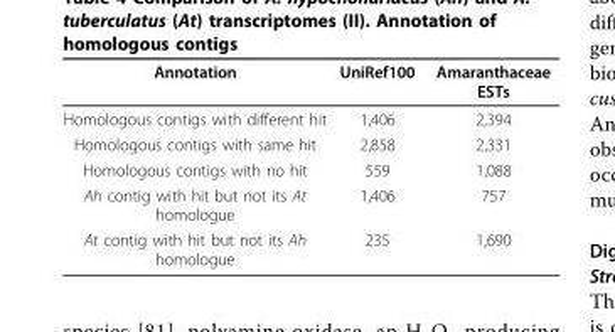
<table><thead><tr><td>Annotation</td><td>UniRef100</td><td>Amaranthaceae ESTs</td></tr></thead><tbody><tr><td>Homologous contigs with different hit</td><td>1,406</td><td>2,394</td></tr><tr><td>Homologous contigs with same hit</td><td>2,858</td><td>2,331</td></tr><tr><td>Homologous contigs with no hit</td><td>559</td><td>1,088</td></tr><tr><td>Ah contig with hit but not its At homologue</td><td>1,406</td><td>757</td></tr><tr><td>At contig with hit but not its Ah homologue</td><td>235</td><td>1,690</td></tr></tbody></table>